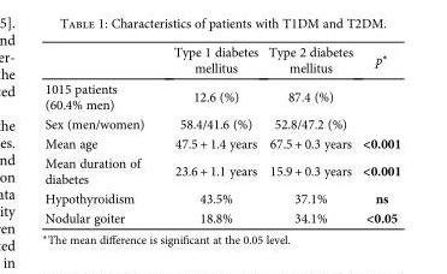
<table><thead><tr><td></td><td>Type 1 diabetes mellitus</td><td>Type 2 diabetes mellitus</td><td>p∗</td></tr></thead><tbody><tr><td>1015 patients (60.4% men)</td><td>12.6 (%)</td><td>87.4 (%)</td><td></td></tr><tr><td>Sex (men/women)</td><td>58.4/41.6 (%)</td><td>52.8/47.2 (%)</td><td></td></tr><tr><td>Mean age</td><td>47.5 + 1.4 years</td><td>67.5 + 0.3 years</td><td>&lt;0.001</td></tr><tr><td>Mean duration of diabetes</td><td>23.6 + 1.1 years</td><td>15.9 + 0.3 years</td><td>&lt;0.001</td></tr><tr><td>Hypothyroidism</td><td>43.5%</td><td>37.1%</td><td>ns</td></tr><tr><td>Nodular goiter</td><td>18.8%</td><td>34.1%</td><td>&lt;0.05</td></tr></tbody></table>